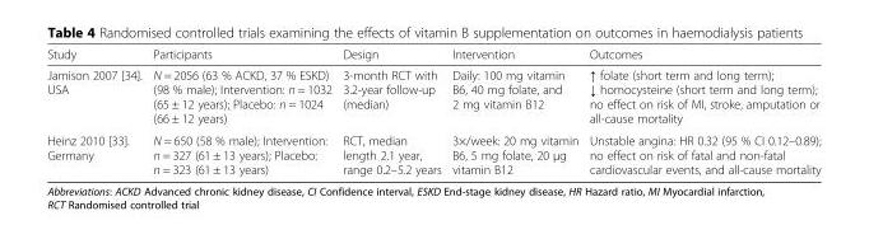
<table><thead><tr><td>Study</td><td>Participants</td><td>Design</td><td>Intervention</td><td>Outcomes</td></tr></thead><tbody><tr><td>Jamison 2007 [34]. USA</td><td>N = 2056 (63 % ACKD, 37 % ESKD) (98 % male); Intervention: n = 1032 (65 ± 12 years); Placebo: n = 1024 (66 ± 12 years)</td><td>3-month RCT with 3.2-year follow-up (median)</td><td>Daily: 100 mg vitamin B6, 40 mg folate, and 2 mg vitamin B12</td><td>↑ folate (short term and long term); ↓ homocysteine (short term and long term); no effect on risk of MI, stroke, amputation or all-cause mortality</td></tr><tr><td>Heinz 2010 [33]. Germany</td><td>N = 650 (58 % male); Intervention: n = 327 (61 ± 13 years); Placebo: n = 323 (61 ± 13 years)</td><td>RCT, median length 2.1 year, range 0.2–5.2 years</td><td>3×/week: 20 mg vitamin B6, 5 mg folate, 20 μg vitamin B12</td><td>Unstable angina: HR 0.32 (95 % CI 0.12–0.89); no effect on risk of fatal and non-fatal cardiovascular events, and all-cause mortality</td></tr></tbody></table>